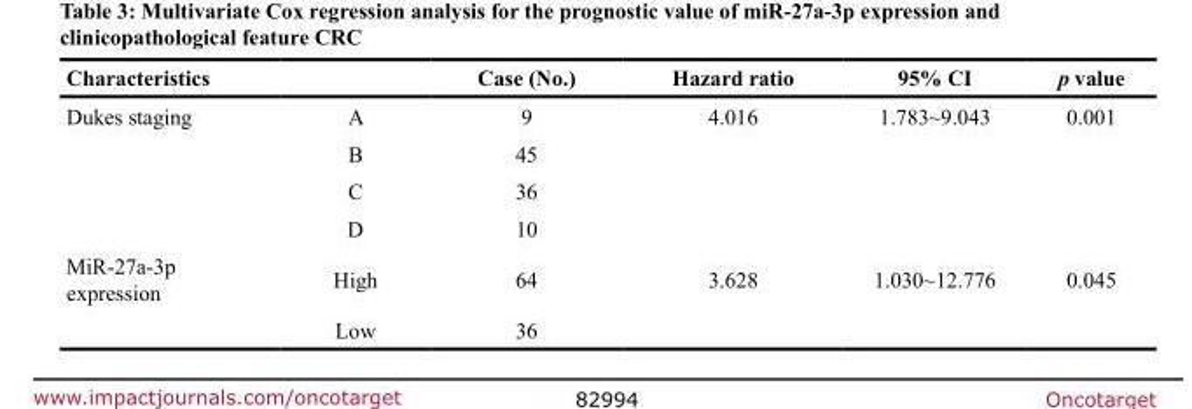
<table><thead><tr><td colspan="2">Characteristics</td><td rowspan="2">Case (No.) 9</td><td rowspan="2">Hazard ratio 4.016</td><td rowspan="2">95% CI 1.783~9.043</td><td rowspan="2">p value 0.001</td></tr><tr><td>Dukes staging</td><td>A</td></tr></thead><tbody><tr><td></td><td>B</td><td>45</td><td></td><td></td><td></td></tr><tr><td></td><td>C</td><td>36</td><td></td><td></td><td></td></tr><tr><td></td><td>D</td><td>10</td><td></td><td></td><td></td></tr><tr><td rowspan="2">MiR-27a-3p expression</td><td>High</td><td>64</td><td>3.628</td><td>1.030~12.776</td><td>0.045</td></tr><tr><td>Low</td><td>36</td><td></td><td></td><td></td></tr></tbody></table>